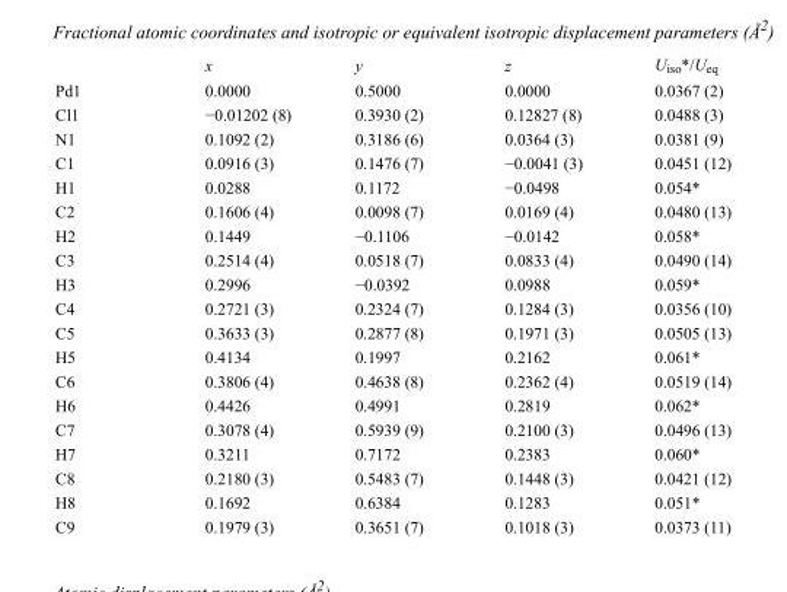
<table><thead><tr><td></td><td>x</td><td>y</td><td>z</td><td>U<sub>iso</sub>*/U<sub>eq</sub></td></tr></thead><tbody><tr><td>Pd1</td><td>0.0000</td><td>0.5000</td><td>0.0000</td><td>0.0367 (2)</td></tr><tr><td>Cl1</td><td>−0.01202 (8)</td><td>0.3930 (2)</td><td>0.12827 (8)</td><td>0.0488 (3)</td></tr><tr><td>N1</td><td>0.1092 (2)</td><td>0.3186 (6)</td><td>0.0364 (3)</td><td>0.0381 (9)</td></tr><tr><td>C1</td><td>0.0916 (3)</td><td>0.1476 (7)</td><td>−0.0041 (3)</td><td>0.0451 (12)</td></tr><tr><td>H1</td><td>0.0288</td><td>0.1172</td><td>−0.0498</td><td>0.054*</td></tr><tr><td>C2</td><td>0.1606 (4)</td><td>0.0098 (7)</td><td>0.0169 (4)</td><td>0.0480 (13)</td></tr><tr><td>H2</td><td>0.1449</td><td>−0.1106</td><td>−0.0142</td><td>0.058*</td></tr><tr><td>C3</td><td>0.2514 (4)</td><td>0.0518 (7)</td><td>0.0833 (4)</td><td>0.0490 (14)</td></tr><tr><td>H3</td><td>0.2996</td><td>−0.0392</td><td>0.0988</td><td>0.059*</td></tr><tr><td>C4</td><td>0.2721 (3)</td><td>0.2324 (7)</td><td>0.1284 (3)</td><td>0.0356 (10)</td></tr><tr><td>C5</td><td>0.3633 (3)</td><td>0.2877 (8)</td><td>0.1971 (3)</td><td>0.0505 (13)</td></tr><tr><td>H5</td><td>0.4134</td><td>0.1997</td><td>0.2162</td><td>0.061*</td></tr><tr><td>C6</td><td>0.3806 (4)</td><td>0.4638 (8)</td><td>0.2362 (4)</td><td>0.0519 (14)</td></tr><tr><td>H6</td><td>0.4426</td><td>0.4991</td><td>0.2819</td><td>0.062*</td></tr><tr><td>C7</td><td>0.3078 (4)</td><td>0.5939 (9)</td><td>0.2100 (3)</td><td>0.0496 (13)</td></tr><tr><td>H7</td><td>0.3211</td><td>0.7172</td><td>0.2383</td><td>0.060*</td></tr><tr><td>C8</td><td>0.2180 (3)</td><td>0.5483 (7)</td><td>0.1448 (3)</td><td>0.0421 (12)</td></tr><tr><td>H8</td><td>0.1692</td><td>0.6384</td><td>0.1283</td><td>0.051*</td></tr><tr><td>C9</td><td>0.1979 (3)</td><td>0.3651 (7)</td><td>0.1018 (3)</td><td>0.0373 (11)</td></tr></tbody></table>